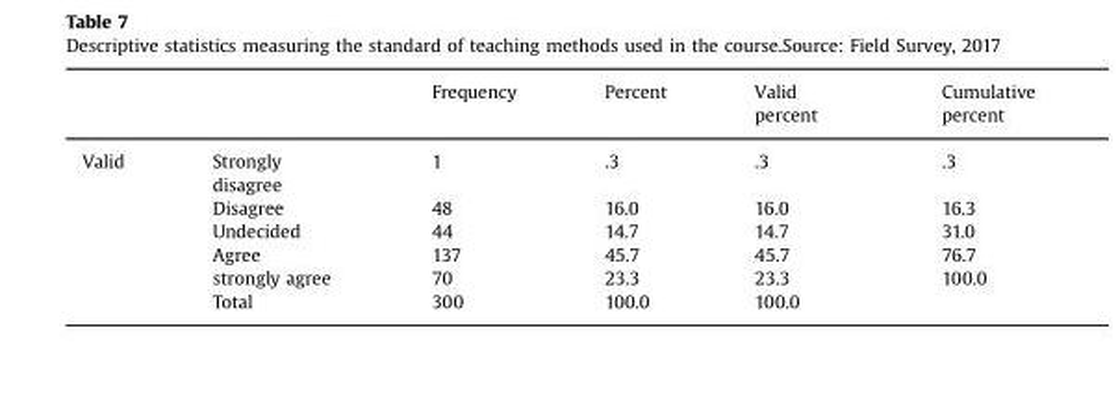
<table><thead><tr><td></td><td></td><td>Frequency</td><td>Percent</td><td>Valid percent</td><td>Cumulative percent</td></tr></thead><tbody><tr><td rowspan="6">Valid</td><td>Strongly disagree</td><td>1</td><td>.3</td><td>.3</td><td>.3</td></tr><tr><td>Disagree</td><td>48</td><td>16.0</td><td>16.0</td><td>16.3</td></tr><tr><td>Undecided</td><td>44</td><td>14.7</td><td>14.7</td><td>31.0</td></tr><tr><td>Agree</td><td>137</td><td>45.7</td><td>45.7</td><td>76.7</td></tr><tr><td>strongly agree</td><td>70</td><td>23.3</td><td>23.3</td><td>100.0</td></tr><tr><td>Total</td><td>300</td><td>100.0</td><td>100.0</td><td></td></tr></tbody></table>